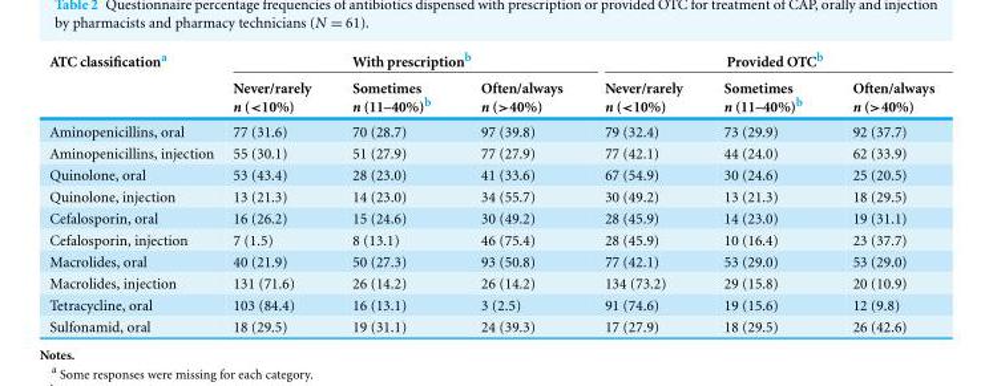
<table><thead><tr><td rowspan="2">ATC classification<sup>a</sup></td><td colspan="3">With prescription<sup>b</sup></td><td colspan="3">Provided OTC<sup>b</sup></td></tr><tr><td>Never/rarely n (&lt;10%)</td><td>Sometimes n (11–40%)<sup>b</sup></td><td>Often/always n (&gt;40%)</td><td>Never/rarely n (&lt;10%)</td><td>Sometimes n (11–40%)<sup>b</sup></td><td>Often/always n (&gt;40%)</td></tr></thead><tbody><tr><td>Aminopenicillins, oral</td><td>77 (31.6)</td><td>70 (28.7)</td><td>97 (39.8)</td><td>79 (32.4)</td><td>73 (29.9)</td><td>92 (37.7)</td></tr><tr><td>Aminopenicillins, injection</td><td>55 (30.1)</td><td>51 (27.9)</td><td>77 (27.9)</td><td>77 (42.1)</td><td>44 (24.0)</td><td>62 (33.9)</td></tr><tr><td>Quinolone, oral</td><td>53 (43.4)</td><td>28 (23.0)</td><td>41 (33.6)</td><td>67 (54.9)</td><td>30 (24.6)</td><td>25 (20.5)</td></tr><tr><td>Quinolone, injection</td><td>13 (21.3)</td><td>14 (23.0)</td><td>34 (55.7)</td><td>30 (49.2)</td><td>13 (21.3)</td><td>18 (29.5)</td></tr><tr><td>Cefalosporin, oral</td><td>16 (26.2)</td><td>15 (24.6)</td><td>30 (49.2)</td><td>28 (45.9)</td><td>14 (23.0)</td><td>19 (31.1)</td></tr><tr><td>Cefalosporin, injection</td><td>7 (1.5)</td><td>8 (13.1)</td><td>46 (75.4)</td><td>28 (45.9)</td><td>10 (16.4)</td><td>23 (37.7)</td></tr><tr><td>Macrolides, oral</td><td>40 (21.9)</td><td>50 (27.3)</td><td>93 (50.8)</td><td>77 (42.1)</td><td>53 (29.0)</td><td>53 (29.0)</td></tr><tr><td>Macrolides, injection</td><td>131 (71.6)</td><td>26 (14.2)</td><td>26 (14.2)</td><td>134 (73.2)</td><td>29 (15.8)</td><td>20 (10.9)</td></tr><tr><td>Tetracycline, oral</td><td>103 (84.4)</td><td>16 (13.1)</td><td>3 (2.5)</td><td>91 (74.6)</td><td>19 (15.6)</td><td>12 (9.8)</td></tr><tr><td>Sulfonamid, oral</td><td>18 (29.5)</td><td>19 (31.1)</td><td>24 (39.3)</td><td>17 (27.9)</td><td>18 (29.5)</td><td>26 (42.6)</td></tr></tbody></table>